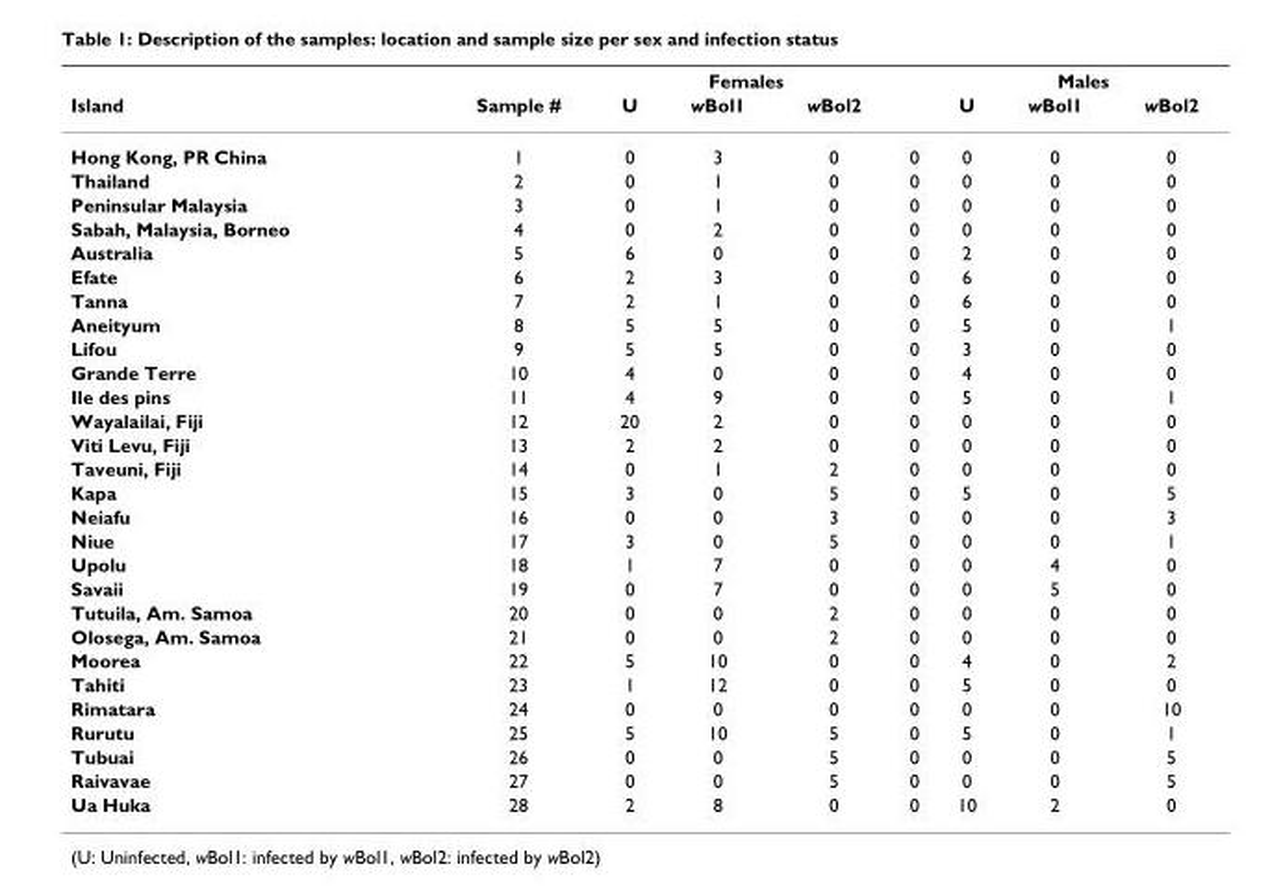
<table><thead><tr><td rowspan="2">Island</td><td rowspan="2">Sample #</td><td colspan="3">Females</td><td rowspan="2"></td><td colspan="3">Males</td></tr><tr><td>U</td><td>wBol1</td><td>wBol2</td><td>U</td><td>wBol1</td><td>wBol2</td></tr></thead><tbody><tr><td>Hong Kong, PR China</td><td>1</td><td>0</td><td>3</td><td>0</td><td>0</td><td>0</td><td>0</td><td>0</td></tr><tr><td>Thailand</td><td>2</td><td>0</td><td>1</td><td>0</td><td>0</td><td>0</td><td>0</td><td>0</td></tr><tr><td>Peninsular Malaysia</td><td>3</td><td>0</td><td>1</td><td>0</td><td>0</td><td>0</td><td>0</td><td>0</td></tr><tr><td>Sabah, Malaysia, Borneo</td><td>4</td><td>0</td><td>2</td><td>0</td><td>0</td><td>0</td><td>0</td><td>0</td></tr><tr><td>Australia</td><td>5</td><td>6</td><td>0</td><td>0</td><td>0</td><td>2</td><td>0</td><td>0</td></tr><tr><td>Efate</td><td>6</td><td>2</td><td>3</td><td>0</td><td>0</td><td>6</td><td>0</td><td>0</td></tr><tr><td>Tanna</td><td>7</td><td>2</td><td>1</td><td>0</td><td>0</td><td>6</td><td>0</td><td>0</td></tr><tr><td>Aneityum</td><td>8</td><td>5</td><td>5</td><td>0</td><td>0</td><td>5</td><td>0</td><td>1</td></tr><tr><td>Lifou</td><td>9</td><td>5</td><td>5</td><td>0</td><td>0</td><td>3</td><td>0</td><td>0</td></tr><tr><td>Grande Terre</td><td>10</td><td>4</td><td>0</td><td>0</td><td>0</td><td>4</td><td>0</td><td>0</td></tr><tr><td>Ile des pins</td><td>11</td><td>4</td><td>9</td><td>0</td><td>0</td><td>5</td><td>0</td><td>1</td></tr><tr><td>Wayalailai, Fiji</td><td>12</td><td>20</td><td>2</td><td>0</td><td>0</td><td>0</td><td>0</td><td>0</td></tr><tr><td>Viti Levu, Fiji</td><td>13</td><td>2</td><td>2</td><td>0</td><td>0</td><td>0</td><td>0</td><td>0</td></tr><tr><td>Taveuni, Fiji</td><td>14</td><td>0</td><td>1</td><td>2</td><td>0</td><td>0</td><td>0</td><td>0</td></tr><tr><td>Kapa</td><td>15</td><td>3</td><td>0</td><td>5</td><td>0</td><td>5</td><td>0</td><td>5</td></tr><tr><td>Neiafu</td><td>16</td><td>0</td><td>0</td><td>3</td><td>0</td><td>0</td><td>0</td><td>3</td></tr><tr><td>Niue</td><td>17</td><td>3</td><td>0</td><td>5</td><td>0</td><td>0</td><td>0</td><td>1</td></tr><tr><td>Upolu</td><td>18</td><td>1</td><td>7</td><td>0</td><td>0</td><td>0</td><td>4</td><td>0</td></tr><tr><td>Savaii</td><td>19</td><td>0</td><td>7</td><td>0</td><td>0</td><td>0</td><td>5</td><td>0</td></tr><tr><td>Tutuila, Am. Samoa</td><td>20</td><td>0</td><td>0</td><td>2</td><td>0</td><td>0</td><td>0</td><td>0</td></tr><tr><td>Olosega, Am. Samoa</td><td>21</td><td>0</td><td>0</td><td>2</td><td>0</td><td>0</td><td>0</td><td>0</td></tr><tr><td>Moorea</td><td>22</td><td>5</td><td>10</td><td>0</td><td>0</td><td>4</td><td>0</td><td>2</td></tr><tr><td>Tahiti</td><td>23</td><td>1</td><td>12</td><td>0</td><td>0</td><td>5</td><td>0</td><td>0</td></tr><tr><td>Rimatara</td><td>24</td><td>0</td><td>0</td><td>0</td><td>0</td><td>0</td><td>0</td><td>10</td></tr><tr><td>Rurutu</td><td>25</td><td>5</td><td>10</td><td>5</td><td>0</td><td>5</td><td>0</td><td>1</td></tr><tr><td>Tubuai</td><td>26</td><td>0</td><td>0</td><td>5</td><td>0</td><td>0</td><td>0</td><td>5</td></tr><tr><td>Raivavae</td><td>27</td><td>0</td><td>0</td><td>5</td><td>0</td><td>0</td><td>0</td><td>5</td></tr><tr><td>Ua Huka</td><td>28</td><td>2</td><td>8</td><td>0</td><td>0</td><td>10</td><td>2</td><td>0</td></tr></tbody></table>